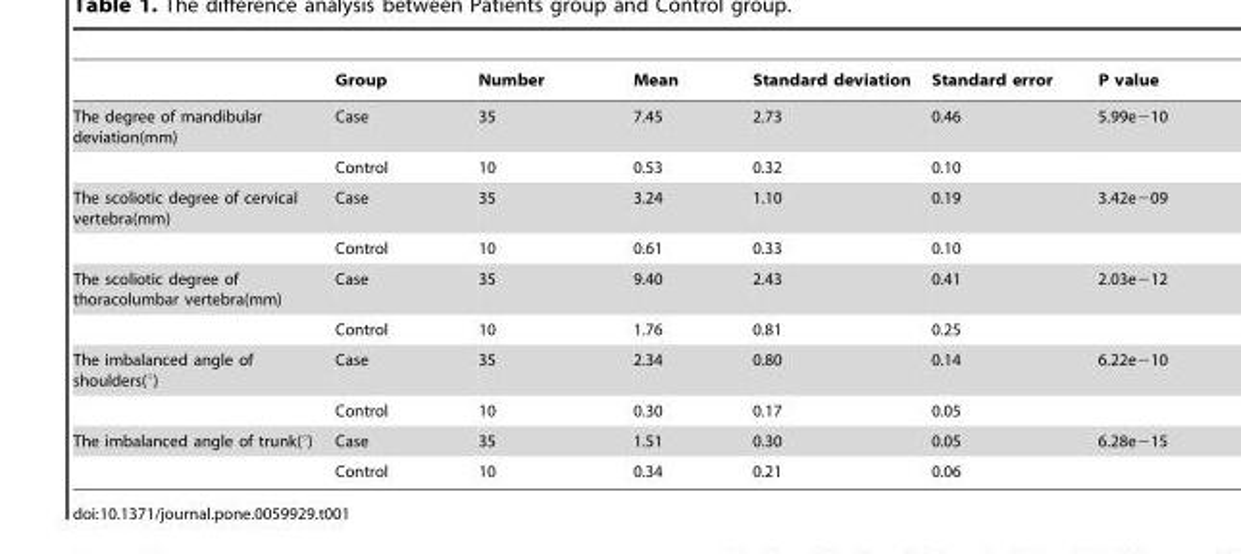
<table><thead><tr><td></td><td>Group</td><td>Number</td><td>Mean</td><td>Standard deviation</td><td>Standard error</td><td>P value</td></tr></thead><tbody><tr><td rowspan="2">The degree of mandibular deviation(mm)</td><td>Case</td><td>35</td><td>7.45</td><td>2.73</td><td>0.46</td><td>5.99e−10</td></tr><tr><td>Control</td><td>10</td><td>0.53</td><td>0.32</td><td>0.10</td><td></td></tr><tr><td rowspan="2">The scoliotic degree of cervical vertebra(mm)</td><td>Case</td><td>35</td><td>3.24</td><td>1.10</td><td>0.19</td><td>3.42e−09</td></tr><tr><td>Control</td><td>10</td><td>0.61</td><td>0.33</td><td>0.10</td><td></td></tr><tr><td rowspan="2">The scoliotic degree of thoracolumbar vertebra(mm)</td><td>Case</td><td>35</td><td>9.40</td><td>2.43</td><td>0.41</td><td>2.03e−12</td></tr><tr><td>Control</td><td>10</td><td>1.76</td><td>0.81</td><td>0.25</td><td></td></tr><tr><td rowspan="2">The imbalanced angle of shoulders(°)</td><td>Case</td><td>35</td><td>2.34</td><td>0.80</td><td>0.14</td><td>6.22e−10</td></tr><tr><td>Control</td><td>10</td><td>0.30</td><td>0.17</td><td>0.05</td><td></td></tr><tr><td rowspan="2">The imbalanced angle of trunk(°)</td><td>Case</td><td>35</td><td>1.51</td><td>0.30</td><td>0.05</td><td>6.28e−15</td></tr><tr><td>Control</td><td>10</td><td>0.34</td><td>0.21</td><td>0.06</td><td></td></tr></tbody></table>